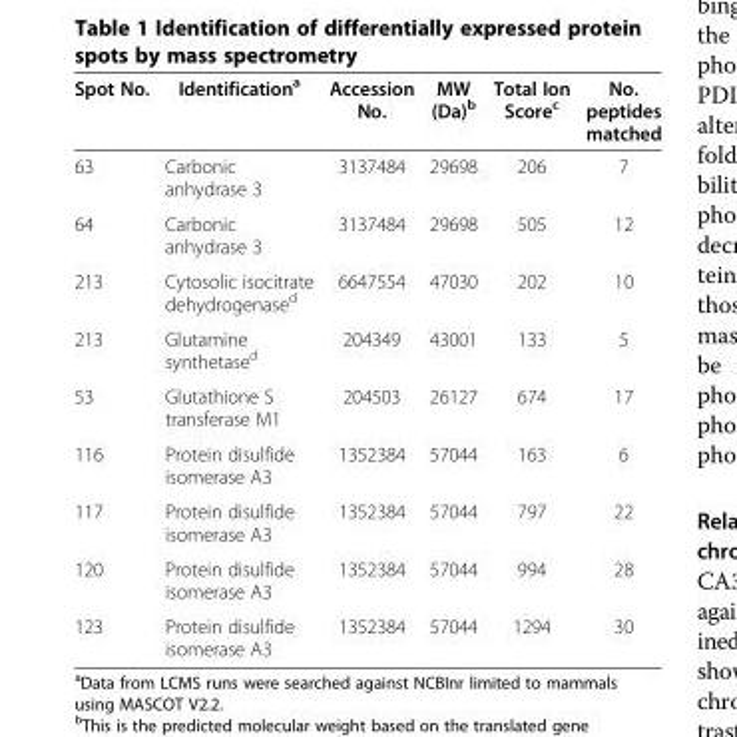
<table><thead><tr><td>Spot No.</td><td>Identification<sup>a</sup></td><td>Accession No.</td><td>MW (Da)<sup>b</sup></td><td>Total Ion Score<sup>c</sup></td><td>No. peptides matched</td></tr></thead><tbody><tr><td>63</td><td>Carbonic anhydrase 3</td><td>3137484</td><td>29698</td><td>206</td><td>7</td></tr><tr><td>64</td><td>Carbonic anhydrase 3</td><td>3137484</td><td>29698</td><td>505</td><td>12</td></tr><tr><td>213</td><td>Cytosolic isocitrate dehydrogenase<sup>d</sup></td><td>6647554</td><td>47030</td><td>202</td><td>10</td></tr><tr><td>213</td><td>Glutamine synthetase<sup>d</sup></td><td>204349</td><td>43001</td><td>133</td><td>5</td></tr><tr><td>53</td><td>Glutathione S transferase M1</td><td>204503</td><td>26127</td><td>674</td><td>17</td></tr><tr><td>116</td><td>Protein disulfide isomerase A3</td><td>1352384</td><td>57044</td><td>163</td><td>6</td></tr><tr><td>117</td><td>Protein disulfide isomerase A3</td><td>1352384</td><td>57044</td><td>797</td><td>22</td></tr><tr><td>120</td><td>Protein disulfide isomerase A3</td><td>1352384</td><td>57044</td><td>994</td><td>28</td></tr><tr><td>123</td><td>Protein disulfide isomerase A3</td><td>1352384</td><td>57044</td><td>1294</td><td>30</td></tr></tbody></table>